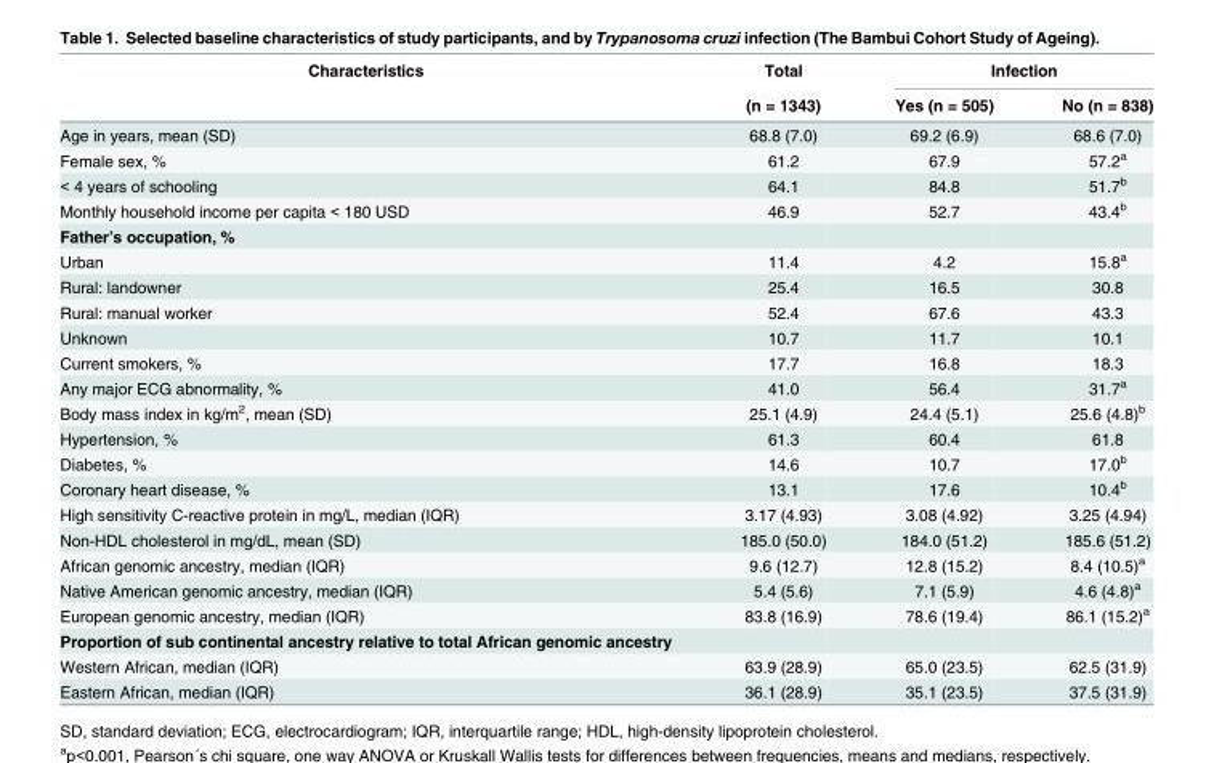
<table><thead><tr><td rowspan="2">Characteristics</td><td rowspan="2">Total (n = 1343)</td><td colspan="2">Infection</td></tr><tr><td>Yes (n = 505)</td><td>No (n = 838)</td></tr></thead><tbody><tr><td>Age in years, mean (SD)</td><td>68.8 (7.0)</td><td>69.2 (6.9)</td><td>68.6 (7.0)</td></tr><tr><td>Female sex, %</td><td>61.2</td><td>67.9</td><td>57.2<sup>a</sup></td></tr><tr><td>&lt; 4 years of schooling</td><td>64.1</td><td>84.8</td><td>51.7<sup>b</sup></td></tr><tr><td>Monthly household income per capita &lt; 180 USD</td><td>46.9</td><td>52.7</td><td>43.4<sup>b</sup></td></tr><tr><td colspan="4">Father’s occupation, %</td></tr><tr><td>Urban</td><td>11.4</td><td>4.2</td><td>15.8<sup>a</sup></td></tr><tr><td>Rural: landowner</td><td>25.4</td><td>16.5</td><td>30.8</td></tr><tr><td>Rural: manual worker</td><td>52.4</td><td>67.6</td><td>43.3</td></tr><tr><td>Unknown</td><td>10.7</td><td>11.7</td><td>10.1</td></tr><tr><td>Current smokers, %</td><td>17.7</td><td>16.8</td><td>18.3</td></tr><tr><td>Any major ECG abnormality, %</td><td>41.0</td><td>56.4</td><td>31.7<sup>a</sup></td></tr><tr><td>Body mass index in kg/m<sup>2</sup>, mean (SD)</td><td>25.1 (4.9)</td><td>24.4 (5.1)</td><td>25.6 (4.8)<sup>b</sup></td></tr><tr><td>Hypertension, %</td><td>61.3</td><td>60.4</td><td>61.8</td></tr><tr><td>Diabetes, %</td><td>14.6</td><td>10.7</td><td>17.0<sup>b</sup></td></tr><tr><td>Coronary heart disease, %</td><td>13.1</td><td>17.6</td><td>10.4<sup>b</sup></td></tr><tr><td>High sensitivity C-reactive protein in mg/L, median (IQR)</td><td>3.17 (4.93)</td><td>3.08 (4.92)</td><td>3.25 (4.94)</td></tr><tr><td>Non-HDL cholesterol in mg/dL, mean (SD)</td><td>185.0 (50.0)</td><td>184.0 (51.2)</td><td>185.6 (51.2)</td></tr><tr><td>African genomic ancestry, median (IQR)</td><td>9.6 (12.7)</td><td>12.8 (15.2)</td><td>8.4 (10.5)<sup>a</sup></td></tr><tr><td>Native American genomic ancestry, median (IQR)</td><td>5.4 (5.6)</td><td>7.1 (5.9)</td><td>4.6 (4.8)<sup>a</sup></td></tr><tr><td>European genomic ancestry, median (IQR)</td><td>83.8 (16.9)</td><td>78.6 (19.4)</td><td>86.1 (15.2)<sup>a</sup></td></tr><tr><td colspan="4">Proportion of sub continental ancestry relative to total African genomic ancestry</td></tr><tr><td>Western African, median (IQR)</td><td>63.9 (28.9)</td><td>65.0 (23.5)</td><td>62.5 (31.9)</td></tr><tr><td>Eastern African, median (IQR)</td><td>36.1 (28.9)</td><td>35.1 (23.5)</td><td>37.5 (31.9)</td></tr></tbody></table>